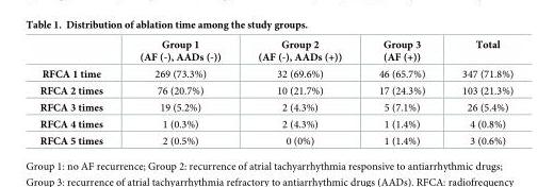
<table><thead><tr><td></td><td>Group 1 (AF (-), AADs (-))</td><td>Group 2 (AF (-), AADs (+))</td><td>Group 3 (AF (+))</td><td>Total</td></tr></thead><tbody><tr><td>RFCA 1 time</td><td>269 (73.3%)</td><td>32 (69.6%)</td><td>46 (65.7%)</td><td>347 (71.8%)</td></tr><tr><td>RFCA 2 times</td><td>76 (20.7%)</td><td>10 (21.7%)</td><td>17 (24.3%)</td><td>103 (21.3%)</td></tr><tr><td>RFCA 3 times</td><td>19 (5.2%)</td><td>2 (4.3%)</td><td>5 (7.1%)</td><td>26 (5.4%)</td></tr><tr><td>RFCA 4 times</td><td>1 (0.3%)</td><td>2 (4.3%)</td><td>1 (1.4%)</td><td>4 (0.8%)</td></tr><tr><td>RFCA 5 times</td><td>2 (0.5%)</td><td>0 (0%)</td><td>1 (1.4%)</td><td>3 (0.6%)</td></tr></tbody></table>